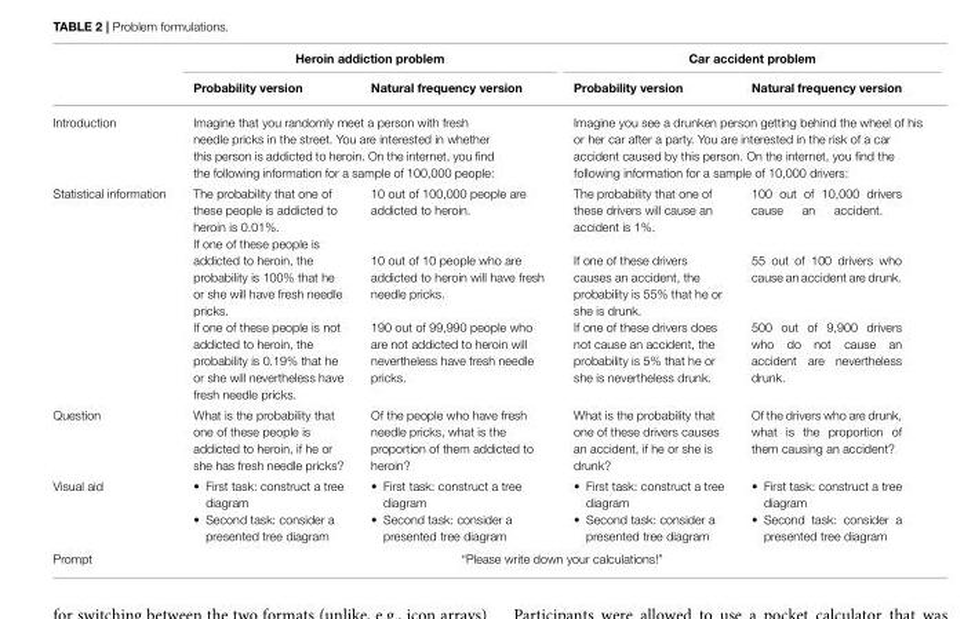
<table><thead><tr><td rowspan="2"></td><td colspan="2">Heroin addiction problem</td><td colspan="2">Car accident problem</td></tr><tr><td>Probability version</td><td>Natural frequency version</td><td>Probability version</td><td>Natural frequency version</td></tr></thead><tbody><tr><td>Introduction</td><td colspan="2">Imagine that you randomly meet a person with fresh needle pricks in the street. You are interested in whether this person is addicted to heroin. On the internet, you find the following information for a sample of 100,000 people:</td><td colspan="2">Imagine you see a drunken person getting behind the wheel of his or her car after a party. You are interested in the risk of a car accident caused by this person. On the internet, you find the following information for a sample of 10,000 drivers:</td></tr><tr><td>Statistical information</td><td>The probability that one of these people is addicted to heroin is 0.01%. If one of these people is addicted to heroin, the probability is 100% that he or she will have fresh needle pricks. If one of these people is not addicted to heroin, the probability is 0.19% that he or she will nevertheless have fresh needle pricks.</td><td>10 out of 100,000 people are addicted to heroin. 10 out of 10 people who are addicted to heroin will have fresh needle pricks. 190 out of 99,990 people who are not addicted to heroin will nevertheless have fresh needle pricks.</td><td>The probability that one of these drivers will cause an accident is 1%. If one of these drivers causes an accident, the probability is 55% that he or she is drunk. If one of these drivers does not cause an accident, the probability is 5% that he or she is nevertheless drunk.</td><td>100 out of 10,000 drivers cause an accident. 55 out of 100 drivers who cause an accident are drunk. 500 out of 9,900 drivers who do not cause an accident are nevertheless drunk.</td></tr><tr><td>Question</td><td>What is the probability that one of these people is addicted to heroin, if he or she has fresh needle pricks?</td><td>Of the people who have fresh needle pricks, what is the proportion of them addicted to heroin?</td><td>What is the probability that one of these drivers causes an accident, if he or she is drunk?</td><td>Of the drivers who are drunk, what is the proportion of them causing an accident?</td></tr><tr><td>Visual aid</td><td>• First task: construct a tree diagram • Second task: consider a presented tree diagram</td><td>• First task: construct a tree diagram • Second task: consider a presented tree diagram</td><td>• First task: construct a tree diagram • Second task: consider a presented tree diagram</td><td>• First task: construct a tree diagram • Second task: consider a presented tree diagram</td></tr><tr><td>Prompt</td><td colspan="4">“Please write down your calculations!”</td></tr></tbody></table>